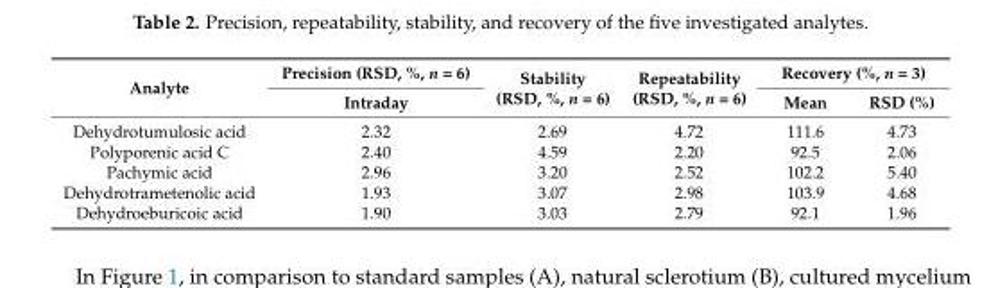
<table><thead><tr><td rowspan="2">Analyte</td><td rowspan="2">Precision (RSD, %, n = 6) Intraday</td><td rowspan="2">Stability (RSD, %, n = 6)</td><td rowspan="2">Repeatability (RSD, %, n = 6)</td><td colspan="2">Recovery (%, n = 3)</td></tr><tr><td>Mean</td><td>RSD (%)</td></tr></thead><tbody><tr><td>Dehydrotumulosic acid</td><td>2.32</td><td>2.69</td><td>4.72</td><td>111.6</td><td>4.73</td></tr><tr><td>Polyporenic acid C</td><td>2.40</td><td>4.59</td><td>2.20</td><td>92.5</td><td>2.06</td></tr><tr><td>Pachymic acid</td><td>2.96</td><td>3.20</td><td>2.52</td><td>102.2</td><td>5.40</td></tr><tr><td>Dehydrotrametenolic acid</td><td>1.93</td><td>3.07</td><td>2.98</td><td>103.9</td><td>4.68</td></tr><tr><td>Dehydroeburicoic acid</td><td>1.90</td><td>3.03</td><td>2.79</td><td>92.1</td><td>1.96</td></tr></tbody></table>